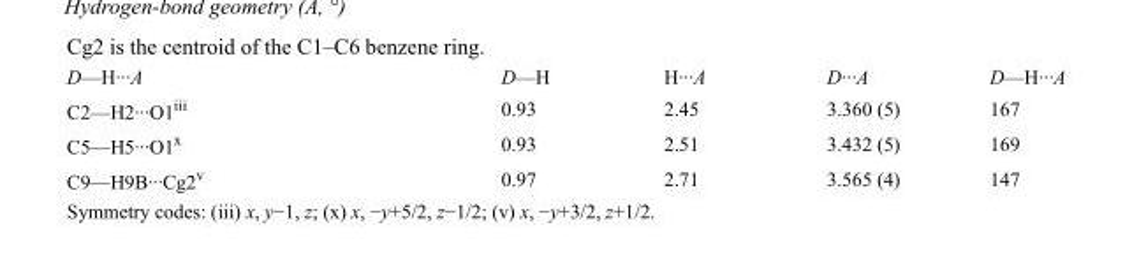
<table><tbody><tr><td>D—H···A</td><td>D—H</td><td>H···A</td><td>D···A</td><td>D—H···A</td></tr><tr><td>C2—H2···O1<sup>iii</sup></td><td>0.93</td><td>2.45</td><td>3.360 (5)</td><td>167</td></tr><tr><td>C5—H5···O1<sup>x</sup></td><td>0.93</td><td>2.51</td><td>3.432 (5)</td><td>169</td></tr><tr><td>C9—H9B···Cg2<sup>v</sup></td><td>0.97</td><td>2.71</td><td>3.565 (4)</td><td>147</td></tr></tbody></table>